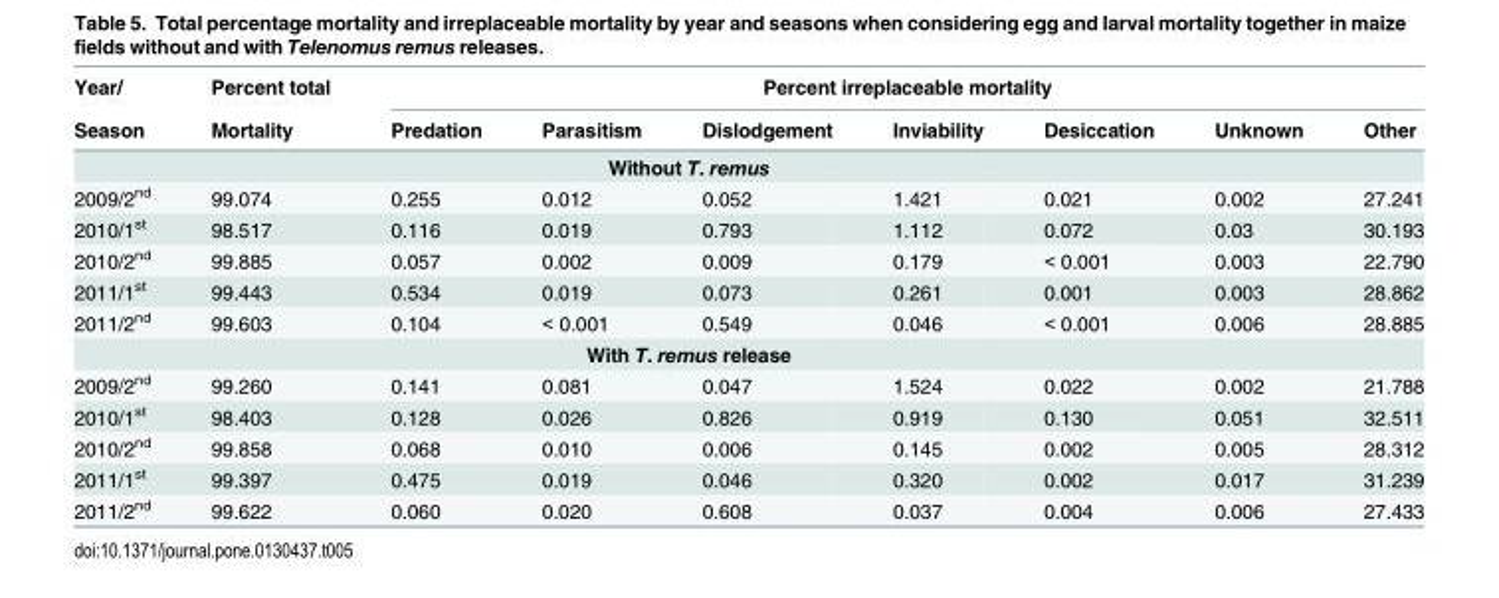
<table><thead><tr><td rowspan="2">Year/ Season</td><td rowspan="2">Percent total Mortality</td><td colspan="7">Percent irreplaceable mortality</td></tr><tr><td>Predation</td><td>Parasitism</td><td>Dislodgement</td><td>Inviability</td><td>Desiccation</td><td>Unknown</td><td>Other</td></tr></thead><tbody><tr><td colspan="9">Without T. remus</td></tr><tr><td>2009/2<sup>nd</sup></td><td>99.074</td><td>0.255</td><td>0.012</td><td>0.052</td><td>1.421</td><td>0.021</td><td>0.002</td><td>27.241</td></tr><tr><td>2010/1<sup>st</sup></td><td>98.517</td><td>0.116</td><td>0.019</td><td>0.793</td><td>1.112</td><td>0.072</td><td>0.03</td><td>30.193</td></tr><tr><td>2010/2<sup>nd</sup></td><td>99.885</td><td>0.057</td><td>0.002</td><td>0.009</td><td>0.179</td><td>&lt; 0.001</td><td>0.003</td><td>22.790</td></tr><tr><td>2011/1<sup>st</sup></td><td>99.443</td><td>0.534</td><td>0.019</td><td>0.073</td><td>0.261</td><td>0.001</td><td>0.003</td><td>28.862</td></tr><tr><td>2011/2<sup>nd</sup></td><td>99.603</td><td>0.104</td><td>&lt; 0.001</td><td>0.549</td><td>0.046</td><td>&lt; 0.001</td><td>0.006</td><td>28.885</td></tr><tr><td colspan="9">With T. remus release</td></tr><tr><td>2009/2<sup>nd</sup></td><td>99.260</td><td>0.141</td><td>0.081</td><td>0.047</td><td>1.524</td><td>0.022</td><td>0.002</td><td>21.788</td></tr><tr><td>2010/1<sup>st</sup></td><td>98.403</td><td>0.128</td><td>0.026</td><td>0.826</td><td>0.919</td><td>0.130</td><td>0.051</td><td>32.511</td></tr><tr><td>2010/2<sup>nd</sup></td><td>99.858</td><td>0.068</td><td>0.010</td><td>0.006</td><td>0.145</td><td>0.002</td><td>0.005</td><td>28.312</td></tr><tr><td>2011/1<sup>st</sup></td><td>99.397</td><td>0.475</td><td>0.019</td><td>0.046</td><td>0.320</td><td>0.002</td><td>0.017</td><td>31.239</td></tr><tr><td>2011/2<sup>nd</sup></td><td>99.622</td><td>0.060</td><td>0.020</td><td>0.608</td><td>0.037</td><td>0.004</td><td>0.006</td><td>27.433</td></tr></tbody></table>